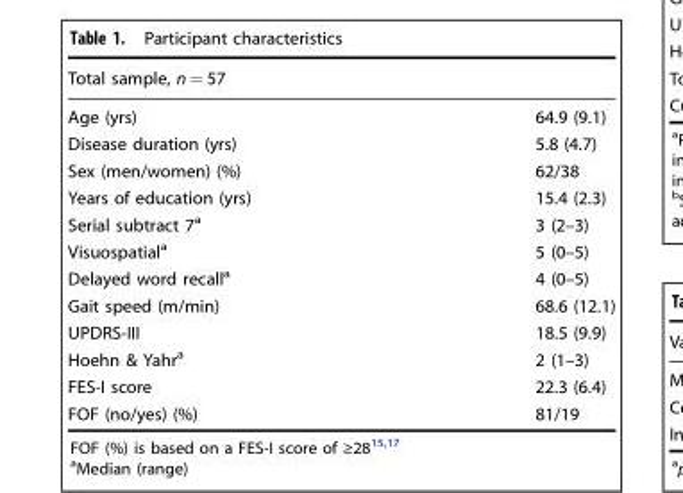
<table><thead><tr><td>Total sample, n = 57</td><td></td></tr></thead><tbody><tr><td>Age (yrs)</td><td>64.9 (9.1)</td></tr><tr><td>Disease duration (yrs)</td><td>5.8 (4.7)</td></tr><tr><td>Sex (men/women) (%)</td><td>62/38</td></tr><tr><td>Years of education (yrs)</td><td>15.4 (2.3)</td></tr><tr><td>Serial subtract 7<sup>a</sup></td><td>3 (2–3)</td></tr><tr><td>Visuospatial<sup>a</sup></td><td>5 (0–5)</td></tr><tr><td>Delayed word recall<sup>a</sup></td><td>4 (0–5)</td></tr><tr><td>Gait speed (m/min)</td><td>68.6 (12.1)</td></tr><tr><td>UPDRS-III</td><td>18.5 (9.9)</td></tr><tr><td>Hoehn &amp; Yahr<sup>a</sup></td><td>2 (1–3)</td></tr><tr><td>FES-I score</td><td>22.3 (6.4)</td></tr><tr><td>FOF (no/yes) (%)</td><td>81/19</td></tr></tbody></table>